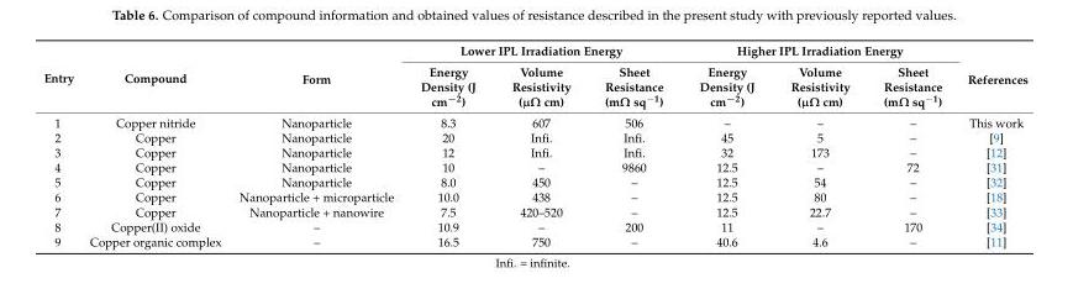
<table><thead><tr><td rowspan="2">Entry</td><td rowspan="2">Compound</td><td rowspan="2">Form</td><td colspan="3">Lower IPL Irradiation Energy</td><td colspan="3">Higher IPL Irradiation Energy</td><td rowspan="2">References</td></tr><tr><td>Energy Density (J cm<sup>−2</sup>)</td><td>Volume Resistivity (µΩ cm)</td><td>Sheet Resistance (mΩ sq<sup>−1</sup>)</td><td>Energy Density (J cm<sup>−2</sup>)</td><td>Volume Resistivity (µΩ cm)</td><td>Sheet Resistance (mΩ sq<sup>−1</sup>)</td></tr></thead><tbody><tr><td>1</td><td>Copper nitride</td><td>Nanoparticle</td><td>8.3</td><td>607</td><td>506</td><td>–</td><td>–</td><td>–</td><td>This work</td></tr><tr><td>2</td><td>Copper</td><td>Nanoparticle</td><td>20</td><td>Infi.</td><td>Infi.</td><td>45</td><td>5</td><td>–</td><td>[9]</td></tr><tr><td>3</td><td>Copper</td><td>Nanoparticle</td><td>12</td><td>Infi.</td><td>Infi.</td><td>32</td><td>173</td><td>–</td><td>[12]</td></tr><tr><td>4</td><td>Copper</td><td>Nanoparticle</td><td>10</td><td>–</td><td>9860</td><td>12.5</td><td>–</td><td>72</td><td>[31]</td></tr><tr><td>5</td><td>Copper</td><td>Nanoparticle</td><td>8.0</td><td>450</td><td>–</td><td>12.5</td><td>54</td><td>–</td><td>[32]</td></tr><tr><td>6</td><td>Copper</td><td>Nanoparticle + microparticle</td><td>10.0</td><td>438</td><td>–</td><td>12.5</td><td>80</td><td>–</td><td>[18]</td></tr><tr><td>7</td><td>Copper</td><td>Nanoparticle + nanowire</td><td>7.5</td><td>420–520</td><td>–</td><td>12.5</td><td>22.7</td><td>–</td><td>[33]</td></tr><tr><td>8</td><td>Copper(II) oxide</td><td>–</td><td>10.9</td><td>–</td><td>200</td><td>11</td><td>–</td><td>170</td><td>[34]</td></tr><tr><td>9</td><td>Copper organic complex</td><td>–</td><td>16.5</td><td>750</td><td>–</td><td>40.6</td><td>4.6</td><td>–</td><td>[11]</td></tr></tbody></table>